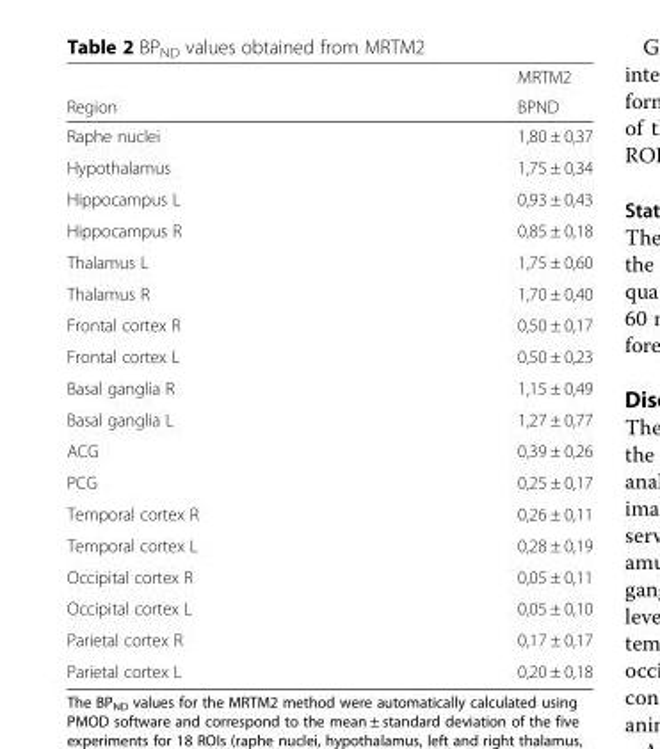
<table><thead><tr><td rowspan="2">Region</td><td rowspan="2">MRTM2 BPND</td></tr><tr></tr></thead><tbody><tr><td>Raphe nuclei</td><td>1,80 ± 0,37</td></tr><tr><td>Hypothalamus</td><td>1,75 ± 0,34</td></tr><tr><td>Hippocampus L</td><td>0,93 ± 0,43</td></tr><tr><td>Hippocampus R</td><td>0,85 ± 0,18</td></tr><tr><td>Thalamus L</td><td>1,75 ± 0,60</td></tr><tr><td>Thalamus R</td><td>1,70 ± 0,40</td></tr><tr><td>Frontal cortex R</td><td>0,50 ± 0,17</td></tr><tr><td>Frontal cortex L</td><td>0,50 ± 0,23</td></tr><tr><td>Basal ganglia R</td><td>1,15 ± 0,49</td></tr><tr><td>Basal ganglia L</td><td>1,27 ± 0,77</td></tr><tr><td>ACG</td><td>0,39 ± 0,26</td></tr><tr><td>PCG</td><td>0,25 ± 0,17</td></tr><tr><td>Temporal cortex R</td><td>0,26 ± 0,11</td></tr><tr><td>Temporal cortex L</td><td>0,28 ± 0,19</td></tr><tr><td>Occipital cortex R</td><td>0,05 ± 0,11</td></tr><tr><td>Occipital cortex L</td><td>0,05 ± 0,10</td></tr><tr><td>Parietal cortex R</td><td>0,17 ± 0,17</td></tr><tr><td>Parietal cortex L</td><td>0,20 ± 0,18</td></tr></tbody></table>